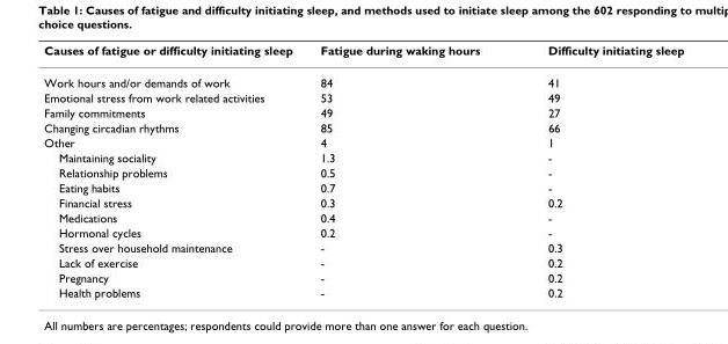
<table><thead><tr><td>Causes of fatigue or difficulty initiating sleep</td><td>Fatigue during waking hours</td><td>Difficulty initiating sleep</td></tr></thead><tbody><tr><td>Work hours and/or demands of work</td><td>84</td><td>41</td></tr><tr><td>Emotional stress from work related activities</td><td>53</td><td>49</td></tr><tr><td>Family commitments</td><td>49</td><td>27</td></tr><tr><td>Changing circadian rhythms</td><td>85</td><td>66</td></tr><tr><td>Other</td><td>4</td><td>1</td></tr><tr><td>Maintaining sociality</td><td>1.3</td><td>-</td></tr><tr><td>Relationship problems</td><td>0.5</td><td>-</td></tr><tr><td>Eating habits</td><td>0.7</td><td>-</td></tr><tr><td>Financial stress</td><td>0.3</td><td>0.2</td></tr><tr><td>Medications</td><td>0.4</td><td>-</td></tr><tr><td>Hormonal cycles</td><td>0.2</td><td>-</td></tr><tr><td>Stress over household maintenance</td><td>-</td><td>0.3</td></tr><tr><td>Lack of exercise</td><td>-</td><td>0.2</td></tr><tr><td>Pregnancy</td><td>-</td><td>0.2</td></tr><tr><td>Health problems</td><td>-</td><td>0.2</td></tr></tbody></table>